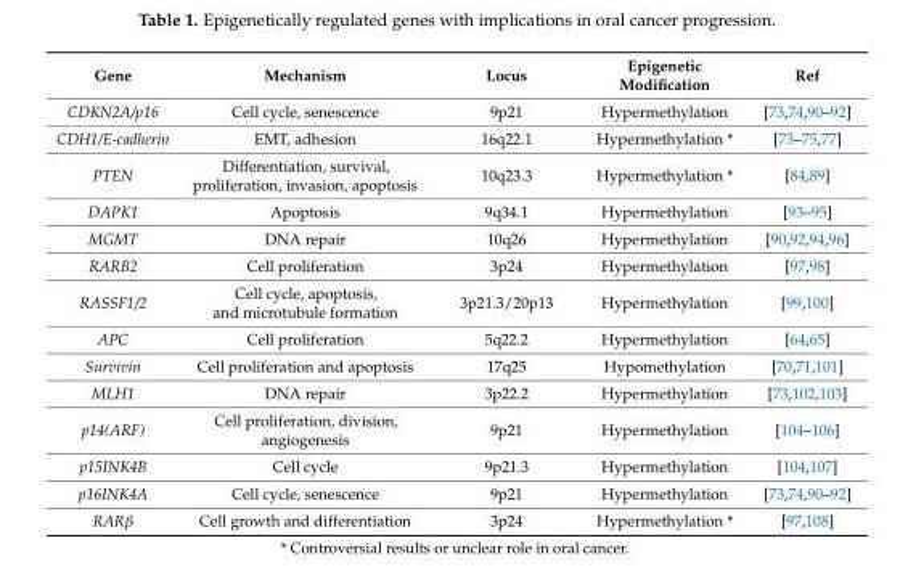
<table><thead><tr><td>Gene</td><td>Mechanism</td><td>Locus</td><td>Epigenetic Modification</td><td>Ref</td></tr></thead><tbody><tr><td>CDKN2A/p16</td><td>Cell cycle, senescence</td><td>9p21</td><td>Hypermethylation</td><td>[73,74,90–92]</td></tr><tr><td>CDH1/E-cadherin</td><td>EMT, adhesion</td><td>16q22.1</td><td>Hypermethylation *</td><td>[73–75,77]</td></tr><tr><td>PTEN</td><td>Differentiation, survival, proliferation, invasion, apoptosis</td><td>10q23.3</td><td>Hypermethylation *</td><td>[84,89]</td></tr><tr><td>DAPK1</td><td>Apoptosis</td><td>9q34.1</td><td>Hypermethylation</td><td>[93–95]</td></tr><tr><td>MGMT</td><td>DNA repair</td><td>10q26</td><td>Hypermethylation</td><td>[90,92,94,96]</td></tr><tr><td>RARB2</td><td>Cell proliferation</td><td>3p24</td><td>Hypermethylation</td><td>[97,98]</td></tr><tr><td>RASSF1/2</td><td>Cell cycle, apoptosis, and microtubule formation</td><td>3p21.3/20p13</td><td>Hypermethylation</td><td>[99,100]</td></tr><tr><td>APC</td><td>Cell proliferation</td><td>5q22.2</td><td>Hypermethylation</td><td>[64,65]</td></tr><tr><td>Survivin</td><td>Cell proliferation and apoptosis</td><td>17q25</td><td>Hypomethylation</td><td>[70,71,101]</td></tr><tr><td>MLH1</td><td>DNA repair</td><td>3p22.2</td><td>Hypermethylation</td><td>[73,102,103]</td></tr><tr><td>p14(ARF)</td><td>Cell proliferation, division, angiogenesis</td><td>9p21</td><td>Hypermethylation</td><td>[104–106]</td></tr><tr><td>p15INK4B</td><td>Cell cycle</td><td>9p21.3</td><td>Hypermethylation</td><td>[104,107]</td></tr><tr><td>p16INK4A</td><td>Cell cycle, senescence</td><td>9p21</td><td>Hypermethylation</td><td>[73,74,90–92]</td></tr><tr><td>RARβ</td><td>Cell growth and differentiation</td><td>3p24</td><td>Hypermethylation *</td><td>[97,108]</td></tr></tbody></table>